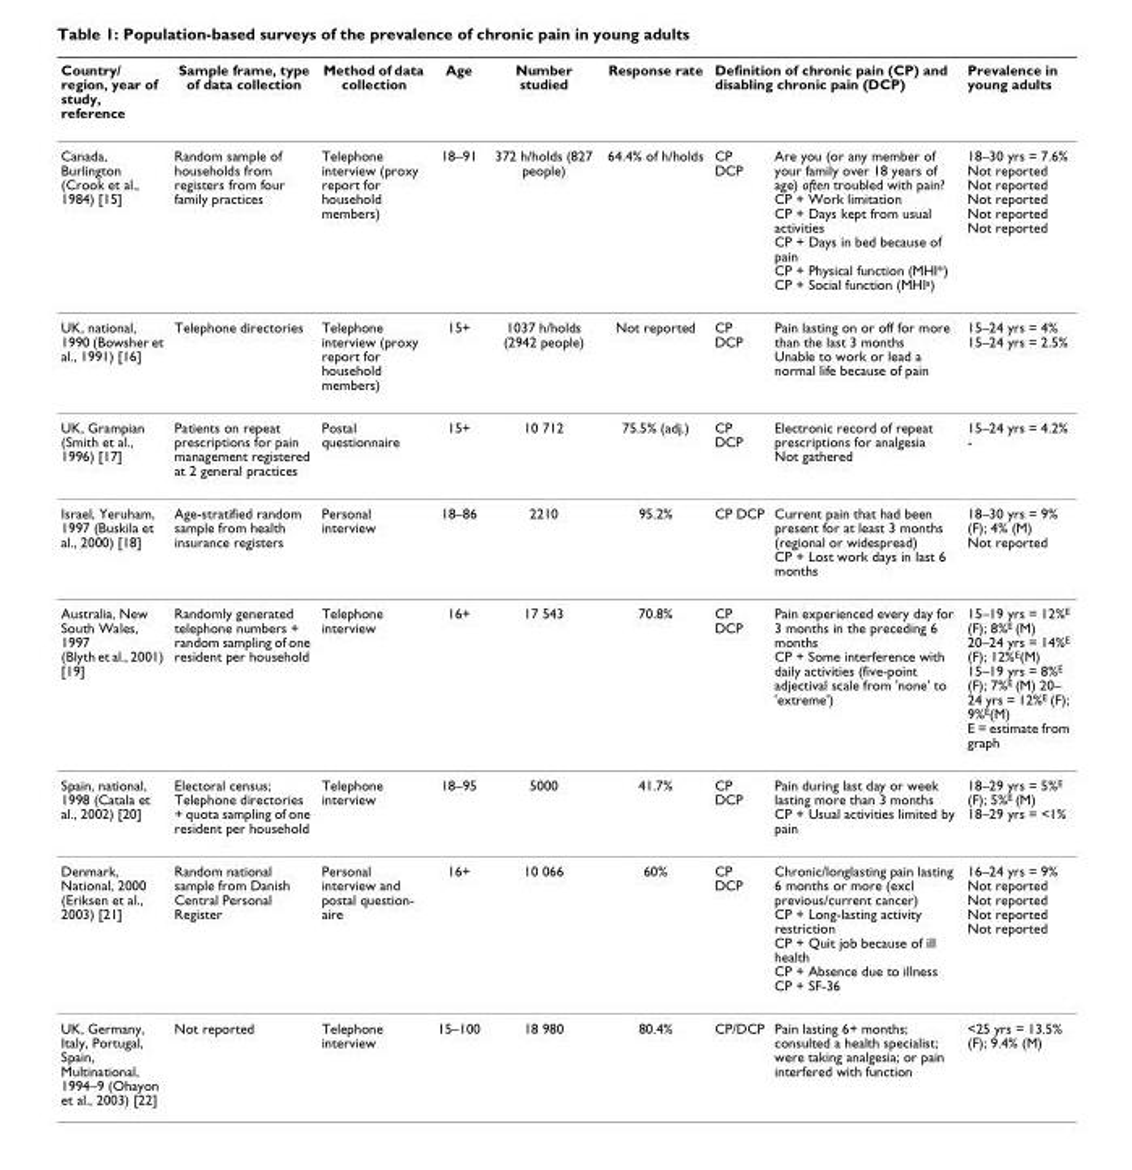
<table><thead><tr><td rowspan="2">Country/ region, year of study, reference Canada, Burlington (Crook et al., 1984) [15]</td><td rowspan="2">Sample frame, type of data collection Random sample of households from registers from four family practices</td><td rowspan="2">Method of data collection Telephone interview (proxy report for household members)</td><td rowspan="2">Age 18–91</td><td rowspan="2">Number studied 372 h/holds (827 people)</td><td rowspan="2">Response rate 64.4% of h/holds</td><td colspan="2">Definition of chronic pain (CP) and disabling chronic pain (DCP)</td><td rowspan="2">Prevalence in young adults 18–30 yrs = 7.6% Not reported Not reported Not reported Not reported Not reported</td></tr><tr><td>CP DCP</td><td>Are you (or any member of your family over 18 years of age) often troubled with pain? CP + Work limitation CP + Days kept from usual activities CP + Days in bed because of pain CP + Physical function (MHI*) CP + Social function (MHIa)</td></tr></thead><tbody><tr><td>UK, national, 1990 (Bowsher et al., 1991) [16]</td><td>Telephone directories</td><td>Telephone interview (proxy report for household members)</td><td>15+</td><td>1037 h/holds (2942 people)</td><td>Not reported</td><td>CP DCP</td><td>Pain lasting on or off for more than the last 3 months Unable to work or lead a normal life because of pain</td><td>15–24 yrs = 4% 15–24 yrs = 2.5%</td></tr><tr><td>UK, Grampian (Smith et al., 1996) [17]</td><td>Patients on repeat prescriptions for pain management registered at 2 general practices</td><td>Postal questionnaire</td><td>15+</td><td>10 712</td><td>75.5% (adj.)</td><td>CP DCP</td><td>Electronic record of repeat prescriptions for analgesia Not gathered</td><td>15–24 yrs = 4.2% -</td></tr><tr><td>Israel, Yeruham, 1997 (Buskila et al., 2000) [18]</td><td>Age-stratified random sample from health insurance registers</td><td>Personal interview</td><td>18–86</td><td>2210</td><td>95.2%</td><td>CP DCP</td><td>Current pain that had been present for at least 3 months (regional or widespread) CP + Lost work days in last 6 months</td><td>18–30 yrs = 9% (F); 4% (M) Not reported</td></tr><tr><td>Australia, New South Wales, 1997 (Blyth et al., 2001) [19]</td><td>Randomly generated telephone numbers + random sampling of one resident per household</td><td>Telephone interview</td><td>16+</td><td>17 543</td><td>70.8%</td><td>CP DCP</td><td>Pain experienced every day for 3 months in the preceding 6 months CP + Some interference with daily activities (five-point adjectival scale from &#x27;none&#x27; to &#x27;extreme&#x27;)</td><td>15–19 yrs = 12%<sup>E</sup> (F); 8%<sup>E</sup> (M) 20–24 yrs = 14%<sup>E</sup> (F); 12%<sup>E</sup>(M) 15–19 yrs = 8%<sup>E</sup> (F); 7%<sup>E</sup> (M) 20– 24 yrs = 12%<sup>E</sup> (F); 9%<sup>E</sup>(M) E = estimate from graph</td></tr><tr><td>Spain, national, 1998 (Catala et al., 2002) [20]</td><td>Electoral census; Telephone directories + quota sampling of one resident per household</td><td>Telephone interview</td><td>18–95</td><td>5000</td><td>41.7%</td><td>CP DCP</td><td>Pain during last day or week lasting more than 3 months CP + Usual activities limited by pain</td><td>18–29 yrs = 5%<sup>E</sup> (F); 5%<sup>E</sup> (M) 18–29 yrs = &lt;1%</td></tr><tr><td>Denmark, National, 2000 (Eriksen et al., 2003) [21]</td><td>Random national sample from Danish Central Personal Register</td><td>Personal interview and postal question- aire</td><td>16+</td><td>10 066</td><td>60%</td><td>CP DCP</td><td>Chronic/longlasting pain lasting 6 months or more (excl previous/current cancer) CP + Long-lasting activity restriction CP + Quit job because of ill health CP + Absence due to illness CP + SF-36</td><td>16–24 yrs = 9% Not reported Not reported Not reported Not reported</td></tr><tr><td>UK, Germany, Italy, Portugal, Spain, Multinational, 1994–9 (Ohayon et al., 2003) [22]</td><td>Not reported</td><td>Telephone interview</td><td>15–100</td><td>18 980</td><td>80.4%</td><td>CP/DCP</td><td>Pain lasting 6+ months; consulted a health specialist; were taking analgesia; or pain interfered with function</td><td>&lt;25 yrs = 13.5% (F); 9.4% (M)</td></tr></tbody></table>